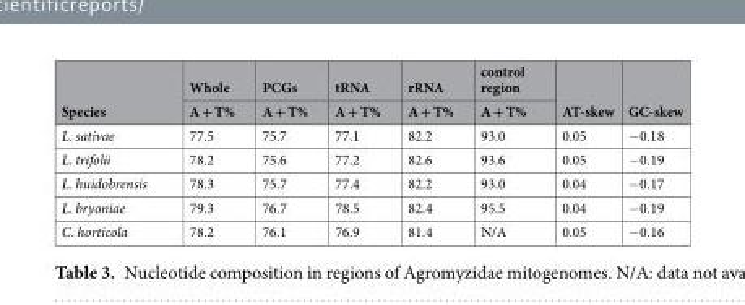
<table><thead><tr><td rowspan="2">Species</td><td rowspan="2">Whole A + T%</td><td rowspan="2">PCGs A + T%</td><td rowspan="2">tRNA A + T%</td><td rowspan="2">rRNA A + T%</td><td rowspan="2">control region A + T%</td><td rowspan="2">AT-skew</td><td rowspan="2">GC-skew</td></tr><tr></tr></thead><tbody><tr><td>L. sativae</td><td>77.5</td><td>75.7</td><td>77.1</td><td>82.2</td><td>93.0</td><td>0.05</td><td>−0.18</td></tr><tr><td>L. trifolii</td><td>78.2</td><td>75.6</td><td>77.2</td><td>82.6</td><td>93.6</td><td>0.05</td><td>−0.19</td></tr><tr><td>L. huidobrensis</td><td>78.3</td><td>75.7</td><td>77.4</td><td>82.2</td><td>93.0</td><td>0.04</td><td>−0.17</td></tr><tr><td>L. bryoniae</td><td>79.3</td><td>76.7</td><td>78.5</td><td>82.4</td><td>95.5</td><td>0.04</td><td>−0.19</td></tr><tr><td>C. horticola</td><td>78.2</td><td>76.1</td><td>76.9</td><td>81.4</td><td>N/A</td><td>0.05</td><td>−0.16</td></tr></tbody></table>